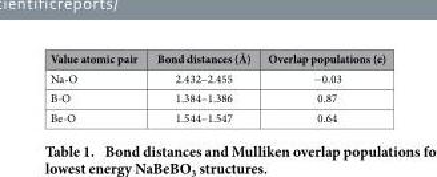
<table><thead><tr><td>Value atomic pair</td><td>Bond distances (Å)</td><td>Overlap populations (e)</td></tr></thead><tbody><tr><td>Na-O</td><td>2.432–2.455</td><td>− 0.03</td></tr><tr><td>B-O</td><td>1.384–1.386</td><td>0.87</td></tr><tr><td>Be-O</td><td>1.544–1.547</td><td>0.64</td></tr></tbody></table>